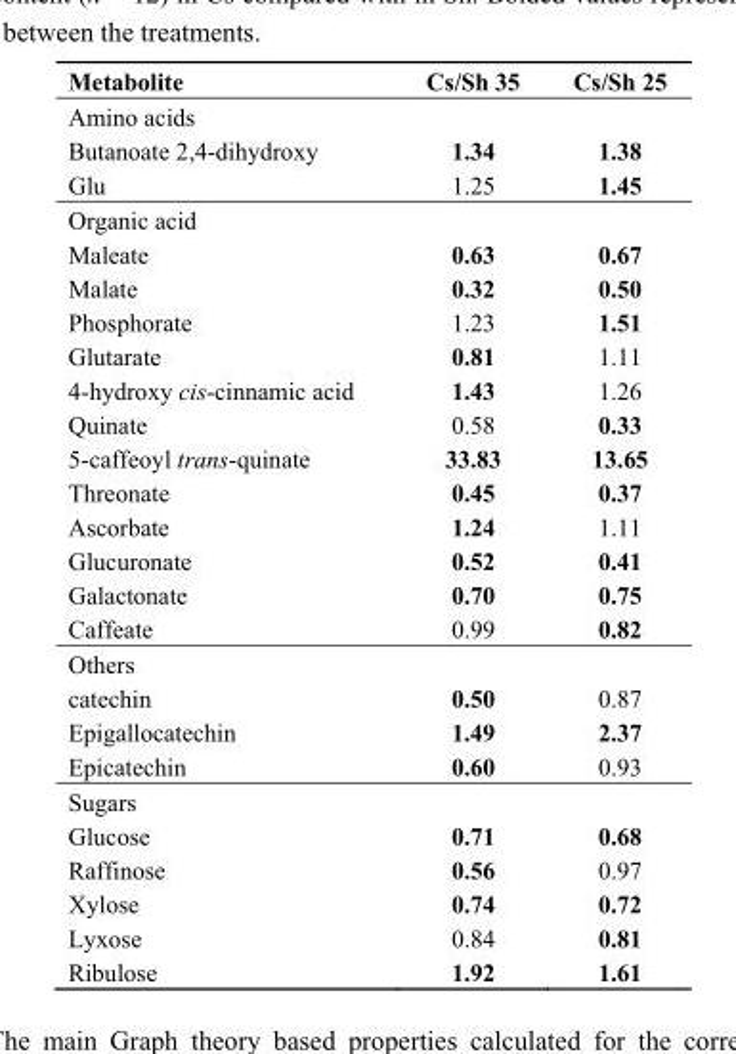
<table><thead><tr><td>Metabolite</td><td>Cs/Sh 35</td><td>Cs/Sh 25</td></tr></thead><tbody><tr><td colspan="3">Amino acids</td></tr><tr><td>Butanoate 2,4-dihydroxy</td><td>1.34</td><td>1.38</td></tr><tr><td>Glu</td><td>1.25</td><td>1.45</td></tr><tr><td colspan="3">Organic acid</td></tr><tr><td>Maleate</td><td>0.63</td><td>0.67</td></tr><tr><td>Malate</td><td>0.32</td><td>0.50</td></tr><tr><td>Phosphorate</td><td>1.23</td><td>1.51</td></tr><tr><td>Glutarate</td><td>0.81</td><td>1.11</td></tr><tr><td>4-hydroxy cis-cinnamic acid</td><td>1.43</td><td>1.26</td></tr><tr><td>Quinate</td><td>0.58</td><td>0.33</td></tr><tr><td>5-caffeoyl trans-quinate</td><td>33.83</td><td>13.65</td></tr><tr><td>Threonate</td><td>0.45</td><td>0.37</td></tr><tr><td>Ascorbate</td><td>1.24</td><td>1.11</td></tr><tr><td>Glucuronate</td><td>0.52</td><td>0.41</td></tr><tr><td>Galactonate</td><td>0.70</td><td>0.75</td></tr><tr><td>Caffeate</td><td>0.99</td><td>0.82</td></tr><tr><td colspan="3">Others</td></tr><tr><td>catechin</td><td>0.50</td><td>0.87</td></tr><tr><td>Epigallocatechin</td><td>1.49</td><td>2.37</td></tr><tr><td>Epicatechin</td><td>0.60</td><td>0.93</td></tr><tr><td colspan="3">Sugars</td></tr><tr><td>Glucose</td><td>0.71</td><td>0.68</td></tr><tr><td>Raffinose</td><td>0.56</td><td>0.97</td></tr><tr><td>Xylose</td><td>0.74</td><td>0.72</td></tr><tr><td>Lyxose</td><td>0.84</td><td>0.81</td></tr><tr><td>Ribulose</td><td>1.92</td><td>1.61</td></tr></tbody></table>